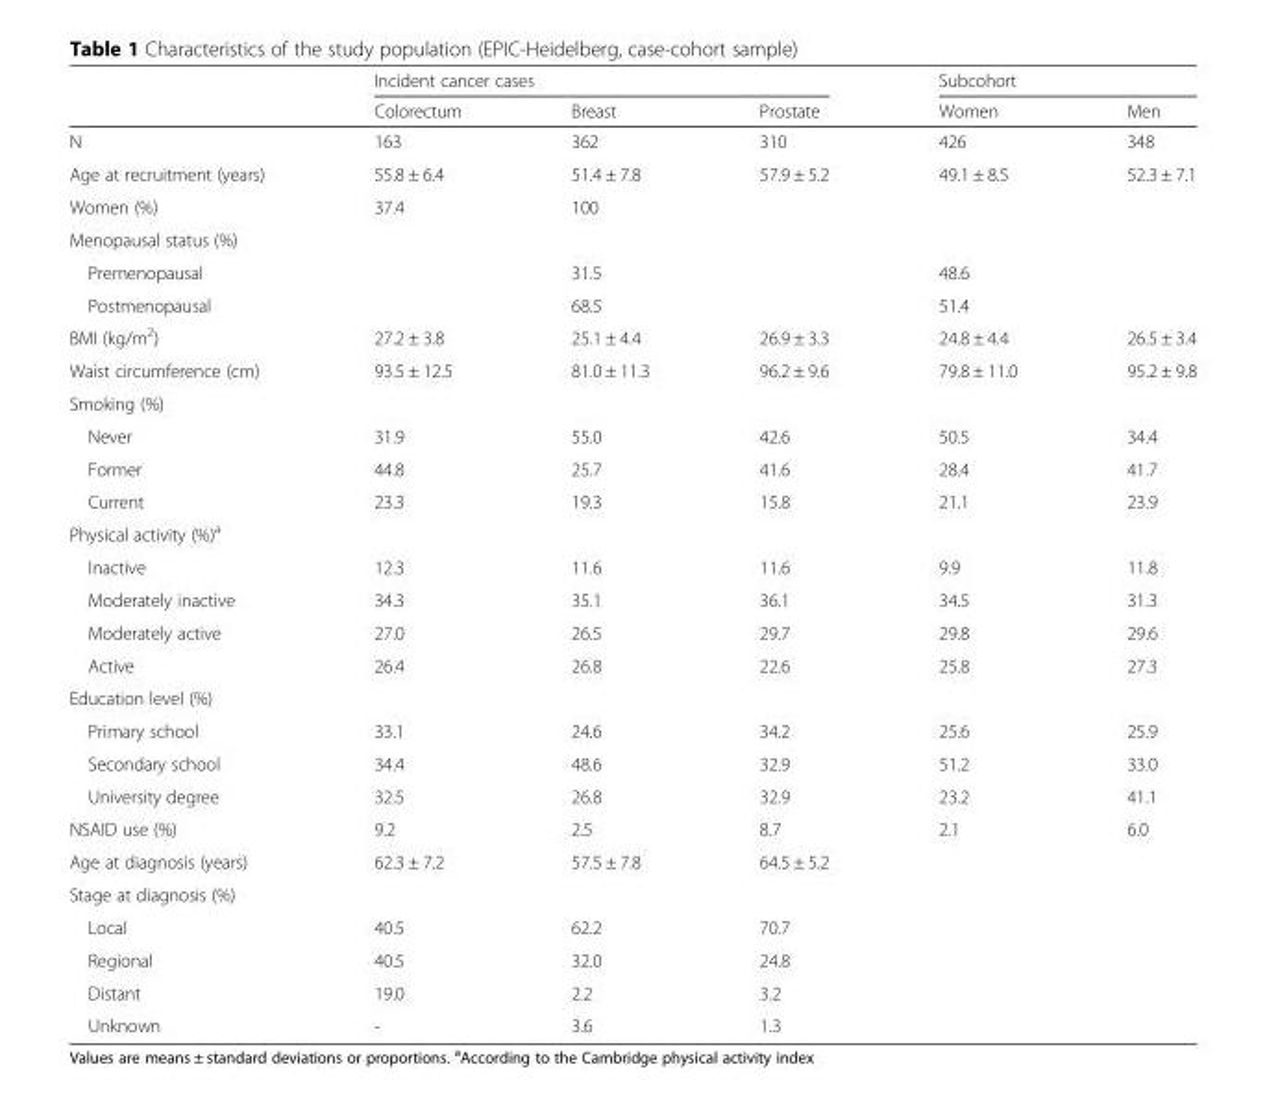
<table><thead><tr><td rowspan="2"></td><td colspan="3">Incident cancer cases</td><td colspan="2">Subcohort</td></tr><tr><td>Colorectum</td><td>Breast</td><td>Prostate</td><td>Women</td><td>Men</td></tr></thead><tbody><tr><td>N</td><td>163</td><td>362</td><td>310</td><td>426</td><td>348</td></tr><tr><td>Age at recruitment (years)</td><td>55.8 ± 6.4</td><td>51.4 ± 7.8</td><td>57.9 ± 5.2</td><td>49.1 ± 8.5</td><td>52.3 ± 7.1</td></tr><tr><td>Women (%)</td><td>37.4</td><td>100</td><td></td><td></td><td></td></tr><tr><td colspan="6">Menopausal status (%)</td></tr><tr><td>Premenopausal</td><td></td><td>31.5</td><td></td><td>48.6</td><td></td></tr><tr><td>Postmenopausal</td><td></td><td>68.5</td><td></td><td>51.4</td><td></td></tr><tr><td>BMI (kg/m<sup>2</sup>)</td><td>27.2 ± 3.8</td><td>25.1 ± 4.4</td><td>26.9 ± 3.3</td><td>24.8 ± 4.4</td><td>26.5 ± 3.4</td></tr><tr><td>Waist circumference (cm)</td><td>93.5 ± 12.5</td><td>81.0 ± 11.3</td><td>96.2 ± 9.6</td><td>79.8 ± 11.0</td><td>95.2 ± 9.8</td></tr><tr><td colspan="6">Smoking (%)</td></tr><tr><td>Never</td><td>31.9</td><td>55.0</td><td>42.6</td><td>50.5</td><td>34.4</td></tr><tr><td>Former</td><td>44.8</td><td>25.7</td><td>41.6</td><td>28.4</td><td>41.7</td></tr><tr><td>Current</td><td>23.3</td><td>19.3</td><td>15.8</td><td>21.1</td><td>23.9</td></tr><tr><td colspan="6">Physical activity (%)<sup>a</sup></td></tr><tr><td>Inactive</td><td>12.3</td><td>11.6</td><td>11.6</td><td>9.9</td><td>11.8</td></tr><tr><td>Moderately inactive</td><td>34.3</td><td>35.1</td><td>36.1</td><td>34.5</td><td>31.3</td></tr><tr><td>Moderately active</td><td>27.0</td><td>26.5</td><td>29.7</td><td>29.8</td><td>29.6</td></tr><tr><td>Active</td><td>26.4</td><td>26.8</td><td>22.6</td><td>25.8</td><td>27.3</td></tr><tr><td colspan="6">Education level (%)</td></tr><tr><td>Primary school</td><td>33.1</td><td>24.6</td><td>34.2</td><td>25.6</td><td>25.9</td></tr><tr><td>Secondary school</td><td>34.4</td><td>48.6</td><td>32.9</td><td>51.2</td><td>33.0</td></tr><tr><td>University degree</td><td>32.5</td><td>26.8</td><td>32.9</td><td>23.2</td><td>41.1</td></tr><tr><td>NSAID use (%)</td><td>9.2</td><td>2.5</td><td>8.7</td><td>2.1</td><td>6.0</td></tr><tr><td>Age at diagnosis (years)</td><td>62.3 ± 7.2</td><td>57.5 ± 7.8</td><td>64.5 ± 5.2</td><td></td><td></td></tr><tr><td colspan="6">Stage at diagnosis (%)</td></tr><tr><td>Local</td><td>40.5</td><td>62.2</td><td>70.7</td><td></td><td></td></tr><tr><td>Regional</td><td>40.5</td><td>32.0</td><td>24.8</td><td></td><td></td></tr><tr><td>Distant</td><td>19.0</td><td>2.2</td><td>3.2</td><td></td><td></td></tr><tr><td>Unknown</td><td>-</td><td>3.6</td><td>1.3</td><td></td><td></td></tr></tbody></table>